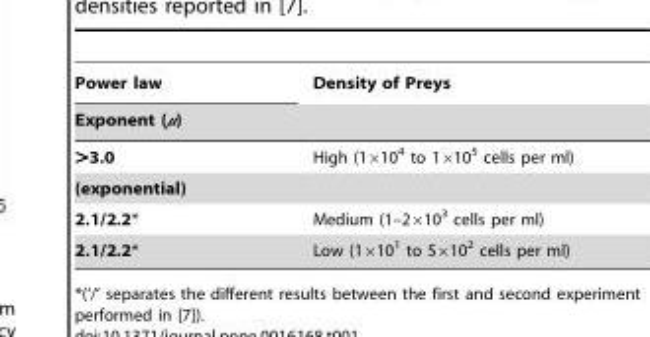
<table><thead><tr><td rowspan="2">Power law Exponent (μ)</td><td rowspan="2">Density of Preys</td></tr><tr></tr></thead><tbody><tr><td>&gt;3.0</td><td>High (1×10<sup>4</sup> to 1×10<sup>5</sup> cells per ml)</td></tr><tr><td colspan="2">(exponential)</td></tr><tr><td>2.1/2.2*</td><td>Medium (1–2×10<sup>3</sup> cells per ml)</td></tr><tr><td>2.1/2.2*</td><td>Low (1×10<sup>1</sup> to 5×10<sup>2</sup> cells per ml)</td></tr></tbody></table>